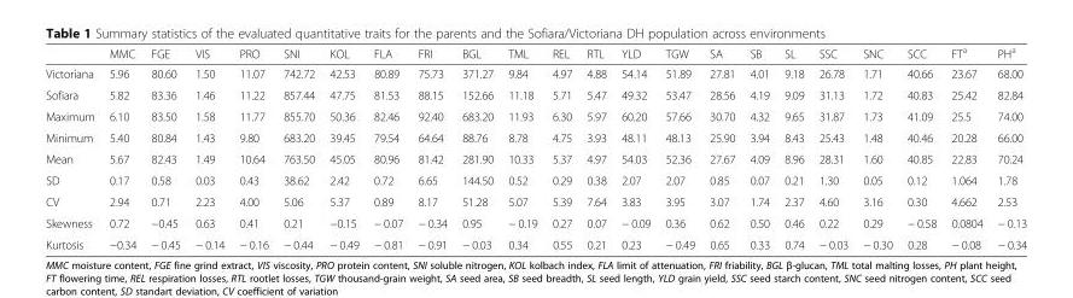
<table><thead><tr><td></td><td>MMC</td><td>FGE</td><td>VIS</td><td>PRO</td><td>SNI</td><td>KOL</td><td>FLA</td><td>FRI</td><td>BGL</td><td>TML</td><td>REL</td><td>RTL</td><td>YLD</td><td>TGW</td><td>SA</td><td>SB</td><td>SL</td><td>SSC</td><td>SNC</td><td>SCC</td><td>FT<sup>a</sup></td><td>PH<sup>a</sup></td></tr></thead><tbody><tr><td>Victoriana</td><td>5.96</td><td>80.60</td><td>1.50</td><td>11.07</td><td>742.72</td><td>42.53</td><td>80.89</td><td>75.73</td><td>371.27</td><td>9.84</td><td>4.97</td><td>4.88</td><td>54.14</td><td>51.89</td><td>27.81</td><td>4.01</td><td>9.18</td><td>26.78</td><td>1.71</td><td>40.66</td><td>23.67</td><td>68.00</td></tr><tr><td>Sofiara</td><td>5.82</td><td>83.36</td><td>1.46</td><td>11.22</td><td>857.44</td><td>47.75</td><td>81.53</td><td>88.15</td><td>152.66</td><td>11.18</td><td>5.71</td><td>5.47</td><td>49.32</td><td>53.47</td><td>28.56</td><td>4.19</td><td>9.09</td><td>31.13</td><td>1.72</td><td>40.83</td><td>25.42</td><td>82.84</td></tr><tr><td>Maximum</td><td>6.10</td><td>83.50</td><td>1.58</td><td>11.77</td><td>855.70</td><td>50.36</td><td>82.46</td><td>92.40</td><td>683.20</td><td>11.93</td><td>6.30</td><td>5.97</td><td>60.20</td><td>57.66</td><td>30.70</td><td>4.32</td><td>9.65</td><td>31.87</td><td>1.73</td><td>41.09</td><td>25.5</td><td>74.00</td></tr><tr><td>Minimum</td><td>5.40</td><td>80.84</td><td>1.43</td><td>9.80</td><td>683.20</td><td>39.45</td><td>79.54</td><td>64.64</td><td>88.76</td><td>8.78</td><td>4.75</td><td>3.93</td><td>48.11</td><td>48.13</td><td>25.90</td><td>3.94</td><td>8.43</td><td>25.43</td><td>1.48</td><td>40.46</td><td>20.28</td><td>66.00</td></tr><tr><td>Mean</td><td>5.67</td><td>82.43</td><td>1.49</td><td>10.64</td><td>763.50</td><td>45.05</td><td>80.96</td><td>81.42</td><td>281.90</td><td>10.33</td><td>5.37</td><td>4.97</td><td>54.03</td><td>52.36</td><td>27.67</td><td>4.09</td><td>8.96</td><td>28.31</td><td>1.60</td><td>40.85</td><td>22.83</td><td>70.24</td></tr><tr><td>SD</td><td>0.17</td><td>0.58</td><td>0.03</td><td>0.43</td><td>38.62</td><td>2.42</td><td>0.72</td><td>6.65</td><td>144.50</td><td>0.52</td><td>0.29</td><td>0.38</td><td>2.07</td><td>2.07</td><td>0.85</td><td>0.07</td><td>0.21</td><td>1.30</td><td>0.05</td><td>0.12</td><td>1.064</td><td>1.78</td></tr><tr><td>CV</td><td>2.94</td><td>0.71</td><td>2.23</td><td>4.00</td><td>5.06</td><td>5.37</td><td>0.89</td><td>8.17</td><td>51.28</td><td>5.07</td><td>5.39</td><td>7.64</td><td>3.83</td><td>3.95</td><td>3.07</td><td>1.74</td><td>2.37</td><td>4.60</td><td>3.16</td><td>0.30</td><td>4.662</td><td>2.53</td></tr><tr><td>Skewness</td><td>0.72</td><td>−0.45</td><td>0.63</td><td>0.41</td><td>0.21</td><td>−0.15</td><td>− 0.07</td><td>− 0.34</td><td>0.95</td><td>− 0.19</td><td>0.27</td><td>0.07</td><td>− 0.09</td><td>0.36</td><td>0.62</td><td>0.50</td><td>0.46</td><td>0.22</td><td>0.29</td><td>− 0.58</td><td>0.0804</td><td>− 0.13</td></tr><tr><td>Kurtosis</td><td>−0.34</td><td>− 0.45</td><td>− 0.14</td><td>− 0.16</td><td>− 0.44</td><td>− 0.49</td><td>− 0.81</td><td>− 0.91</td><td>− 0.03</td><td>0.34</td><td>0.55</td><td>0.21</td><td>0.23</td><td>− 0.49</td><td>0.65</td><td>0.33</td><td>0.74</td><td>− 0.03</td><td>− 0.30</td><td>0.28</td><td>− 0.08</td><td>− 0.34</td></tr></tbody></table>